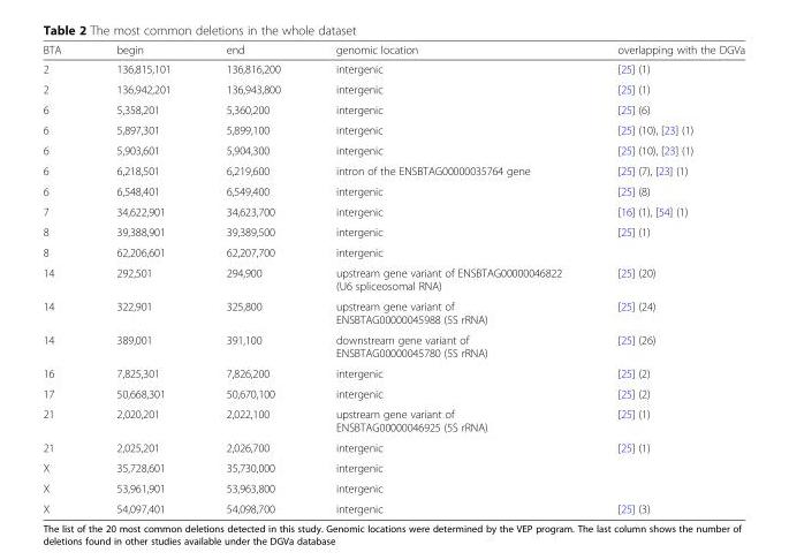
<table><thead><tr><td>BTA</td><td>begin</td><td>end</td><td>genomic location</td><td>overlapping with the DGVa</td></tr></thead><tbody><tr><td>2</td><td>136,815,101</td><td>136,816,200</td><td>intergenic</td><td>[25] (1)</td></tr><tr><td>2</td><td>136,942,201</td><td>136,943,800</td><td>intergenic</td><td>[25] (1)</td></tr><tr><td>6</td><td>5,358,201</td><td>5,360,200</td><td>intergenic</td><td>[25] (6)</td></tr><tr><td>6</td><td>5,897,301</td><td>5,899,100</td><td>intergenic</td><td>[25] (10), [23] (1)</td></tr><tr><td>6</td><td>5,903,601</td><td>5,904,300</td><td>intergenic</td><td>[25] (10), [23] (1)</td></tr><tr><td>6</td><td>6,218,501</td><td>6,219,600</td><td>intron of the ENSBTAG00000035764 gene</td><td>[25] (7), [23] (1)</td></tr><tr><td>6</td><td>6,548,401</td><td>6,549,400</td><td>intergenic</td><td>[25] (8)</td></tr><tr><td>7</td><td>34,622,901</td><td>34,623,700</td><td>intergenic</td><td>[16] (1), [54] (1)</td></tr><tr><td>8</td><td>39,388,901</td><td>39,389,500</td><td>intergenic</td><td>[25] (1)</td></tr><tr><td>8</td><td>62,206,601</td><td>62,207,700</td><td>intergenic</td><td></td></tr><tr><td>14</td><td>292,501</td><td>294,900</td><td>upstream gene variant of ENSBTAG00000046822 (U6 spliceosomal RNA)</td><td>[25] (20)</td></tr><tr><td>14</td><td>322,901</td><td>325,800</td><td>upstream gene variant of ENSBTAG00000045988 (5S rRNA)</td><td>[25] (24)</td></tr><tr><td>14</td><td>389,001</td><td>391,100</td><td>downstream gene variant of ENSBTAG00000045780 (5S rRNA)</td><td>[25] (26)</td></tr><tr><td>16</td><td>7,825,301</td><td>7,826,200</td><td>intergenic</td><td>[25] (2)</td></tr><tr><td>17</td><td>50,668,301</td><td>50,670,100</td><td>intergenic</td><td>[25] (2)</td></tr><tr><td>21</td><td>2,020,201</td><td>2,022,100</td><td>upstream gene variant of ENSBTAG00000046925 (5S rRNA)</td><td>[25] (1)</td></tr><tr><td>21</td><td>2,025,201</td><td>2,026,700</td><td>intergenic</td><td>[25] (1)</td></tr><tr><td>X</td><td>35,728,601</td><td>35,730,000</td><td>intergenic</td><td></td></tr><tr><td>X</td><td>53,961,901</td><td>53,963,800</td><td>intergenic</td><td></td></tr><tr><td>X</td><td>54,097,401</td><td>54,098,700</td><td>intergenic</td><td>[25] (3)</td></tr></tbody></table>